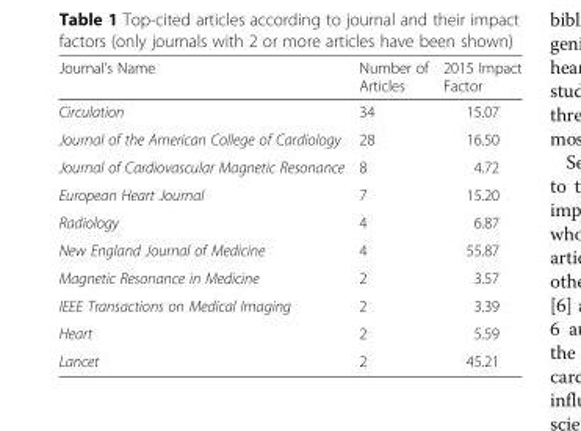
<table><thead><tr><td>Journal’s Name</td><td>Number of Articles</td><td>2015 Impact Factor</td></tr></thead><tbody><tr><td>Circulation</td><td>34</td><td>15.07</td></tr><tr><td>Journal of the American College of Cardiology</td><td>28</td><td>16.50</td></tr><tr><td>Journal of Cardiovascular Magnetic Resonance</td><td>8</td><td>4.72</td></tr><tr><td>European Heart Journal</td><td>7</td><td>15.20</td></tr><tr><td>Radiology</td><td>4</td><td>6.87</td></tr><tr><td>New England Journal of Medicine</td><td>4</td><td>55.87</td></tr><tr><td>Magnetic Resonance in Medicine</td><td>2</td><td>3.57</td></tr><tr><td>IEEE Transactions on Medical Imaging</td><td>2</td><td>3.39</td></tr><tr><td>Heart</td><td>2</td><td>5.59</td></tr><tr><td>Lancet</td><td>2</td><td>45.21</td></tr></tbody></table>